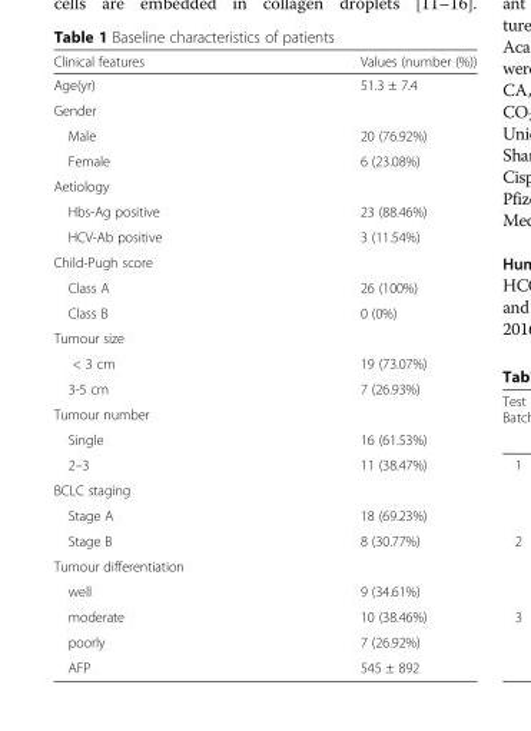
<table><thead><tr><td>Clinical features</td><td>Values (number (%))</td></tr></thead><tbody><tr><td>Age(yr)</td><td>51.3 ± 7.4</td></tr><tr><td colspan="2">Gender</td></tr><tr><td>Male</td><td>20 (76.92%)</td></tr><tr><td>Female</td><td>6 (23.08%)</td></tr><tr><td colspan="2">Aetiology</td></tr><tr><td>Hbs-Ag positive</td><td>23 (88.46%)</td></tr><tr><td>HCV-Ab positive</td><td>3 (11.54%)</td></tr><tr><td colspan="2">Child-Pugh score</td></tr><tr><td>Class A</td><td>26 (100%)</td></tr><tr><td>Class B</td><td>0 (0%)</td></tr><tr><td colspan="2">Tumour size</td></tr><tr><td>&lt; 3 cm</td><td>19 (73.07%)</td></tr><tr><td>3-5 cm</td><td>7 (26.93%)</td></tr><tr><td colspan="2">Tumour number</td></tr><tr><td>Single</td><td>16 (61.53%)</td></tr><tr><td>2–3</td><td>11 (38.47%)</td></tr><tr><td colspan="2">BCLC staging</td></tr><tr><td>Stage A</td><td>18 (69.23%)</td></tr><tr><td>Stage B</td><td>8 (30.77%)</td></tr><tr><td colspan="2">Tumour differentiation</td></tr><tr><td>well</td><td>9 (34.61%)</td></tr><tr><td>moderate</td><td>10 (38.46%)</td></tr><tr><td>poorly</td><td>7 (26.92%)</td></tr><tr><td>AFP</td><td>545 ± 892</td></tr></tbody></table>